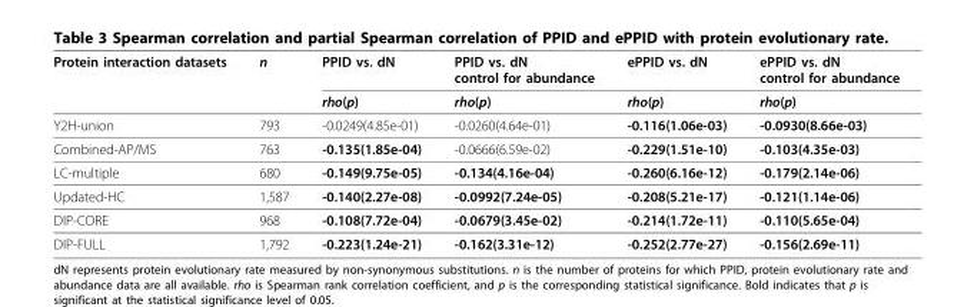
<table><thead><tr><td rowspan="2">Protein interaction datasets</td><td rowspan="2">n</td><td rowspan="2">PPID vs. dN rho(p)</td><td rowspan="2">PPID vs. dN control for abundance rho(p)</td><td rowspan="2">ePPID vs. dN rho(p)</td><td rowspan="2">ePPID vs. dN control for abundance rho(p)</td></tr><tr></tr></thead><tbody><tr><td>Y2H-union</td><td>793</td><td>-0.0249(4.85e-01)</td><td>-0.0260(4.64e-01)</td><td>-0.116(1.06e-03)</td><td>-0.0930(8.66e-03)</td></tr><tr><td>Combined-AP/MS</td><td>763</td><td>-0.135(1.85e-04)</td><td>-0.0666(6.59e-02)</td><td>-0.229(1.51e-10)</td><td>-0.103(4.35e-03)</td></tr><tr><td>LC-multiple</td><td>680</td><td>-0.149(9.75e-05)</td><td>-0.134(4.16e-04)</td><td>-0.260(6.16e-12)</td><td>-0.179(2.14e-06)</td></tr><tr><td>Updated-HC</td><td>1,587</td><td>-0.140(2.27e-08)</td><td>-0.0992(7.24e-05)</td><td>-0.208(5.21e-17)</td><td>-0.121(1.14e-06)</td></tr><tr><td>DIP-CORE</td><td>968</td><td>-0.108(7.72e-04)</td><td>-0.0679(3.45e-02)</td><td>-0.214(1.72e-11)</td><td>-0.110(5.65e-04)</td></tr><tr><td>DIP-FULL</td><td>1,792</td><td>-0.223(1.24e-21)</td><td>-0.162(3.31e-12)</td><td>-0.252(2.77e-27)</td><td>-0.156(2.69e-11)</td></tr></tbody></table>